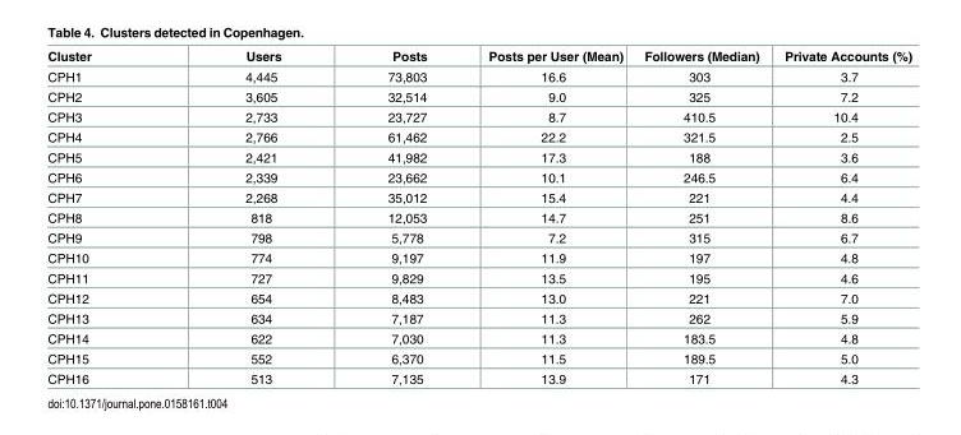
<table><thead><tr><td>Cluster</td><td>Users</td><td>Posts</td><td>Posts per User (Mean)</td><td>Followers (Median)</td><td>Private Accounts (%)</td></tr></thead><tbody><tr><td>CPH1</td><td>4,445</td><td>73,803</td><td>16.6</td><td>303</td><td>3.7</td></tr><tr><td>CPH2</td><td>3,605</td><td>32,514</td><td>9.0</td><td>325</td><td>7.2</td></tr><tr><td>CPH3</td><td>2,733</td><td>23,727</td><td>8.7</td><td>410.5</td><td>10.4</td></tr><tr><td>CPH4</td><td>2,766</td><td>61,462</td><td>22.2</td><td>321.5</td><td>2.5</td></tr><tr><td>CPH5</td><td>2,421</td><td>41,982</td><td>17.3</td><td>188</td><td>3.6</td></tr><tr><td>CPH6</td><td>2,339</td><td>23,662</td><td>10.1</td><td>246.5</td><td>6.4</td></tr><tr><td>CPH7</td><td>2,268</td><td>35,012</td><td>15.4</td><td>221</td><td>4.4</td></tr><tr><td>CPH8</td><td>818</td><td>12,053</td><td>14.7</td><td>251</td><td>8.6</td></tr><tr><td>CPH9</td><td>798</td><td>5,778</td><td>7.2</td><td>315</td><td>6.7</td></tr><tr><td>CPH10</td><td>774</td><td>9,197</td><td>11.9</td><td>197</td><td>4.8</td></tr><tr><td>CPH11</td><td>727</td><td>9,829</td><td>13.5</td><td>195</td><td>4.6</td></tr><tr><td>CPH12</td><td>654</td><td>8,483</td><td>13.0</td><td>221</td><td>7.0</td></tr><tr><td>CPH13</td><td>634</td><td>7,187</td><td>11.3</td><td>262</td><td>5.9</td></tr><tr><td>CPH14</td><td>622</td><td>7,030</td><td>11.3</td><td>183.5</td><td>4.8</td></tr><tr><td>CPH15</td><td>552</td><td>6,370</td><td>11.5</td><td>189.5</td><td>5.0</td></tr><tr><td>CPH16</td><td>513</td><td>7,135</td><td>13.9</td><td>171</td><td>4.3</td></tr></tbody></table>